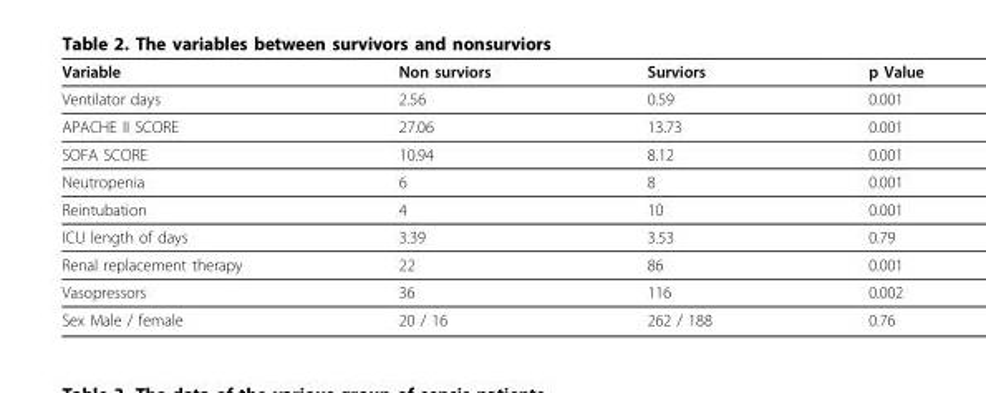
<table><thead><tr><td>Variable</td><td>Non surviors</td><td>Surviors</td><td>p Value</td></tr></thead><tbody><tr><td>Ventilator days</td><td>2.56</td><td>0.59</td><td>0.001</td></tr><tr><td>APACHE II SCORE</td><td>27.06</td><td>13.73</td><td>0.001</td></tr><tr><td>SOFA SCORE</td><td>10.94</td><td>8.12</td><td>0.001</td></tr><tr><td>Neutropenia</td><td>6</td><td>8</td><td>0.001</td></tr><tr><td>Reintubation</td><td>4</td><td>10</td><td>0.001</td></tr><tr><td>ICU length of days</td><td>3.39</td><td>3.53</td><td>0.79</td></tr><tr><td>Renal replacement therapy</td><td>22</td><td>86</td><td>0.001</td></tr><tr><td>Vasopressors</td><td>36</td><td>116</td><td>0.002</td></tr><tr><td>Sex Male / female</td><td>20 / 16</td><td>262 / 188</td><td>0.76</td></tr></tbody></table>